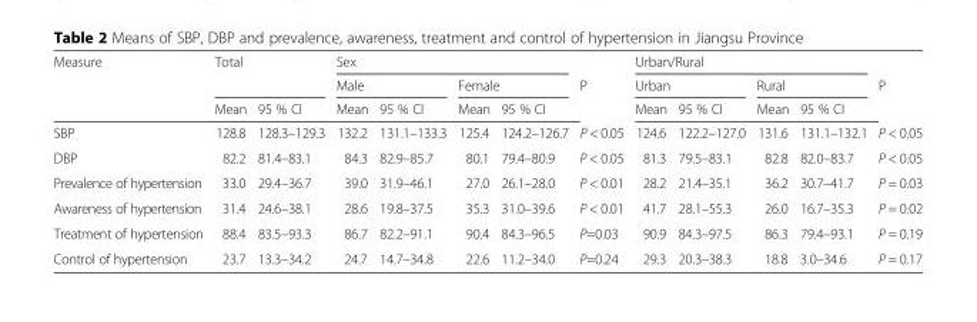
<table><thead><tr><td rowspan="3">Measure</td><td rowspan="2" colspan="2">Total</td><td colspan="4">Sex</td><td rowspan="3">P</td><td colspan="4">Urban/Rural</td><td rowspan="3">P</td></tr><tr><td colspan="2">Male</td><td colspan="2">Female</td><td colspan="2">Urban</td><td colspan="2">Rural</td></tr><tr><td>Mean</td><td>95 % CI</td><td>Mean</td><td>95 % CI</td><td>Mean</td><td>95 % CI</td><td>Mean</td><td>95 % CI</td><td>Mean</td><td>95 % CI</td></tr></thead><tbody><tr><td>SBP</td><td>128.8</td><td>128.3–129.3</td><td>132.2</td><td>131.1–133.3</td><td>125.4</td><td>124.2–126.7</td><td>P &lt; 0.05</td><td>124.6</td><td>122.2–127.0</td><td>131.6</td><td>131.1–132.1</td><td>P &lt; 0.05</td></tr><tr><td>DBP</td><td>82.2</td><td>81.4–83.1</td><td>84.3</td><td>82.9–85.7</td><td>80.1</td><td>79.4–80.9</td><td>P &lt; 0.05</td><td>81.3</td><td>79.5–83.1</td><td>82.8</td><td>82.0–83.7</td><td>P &lt; 0.05</td></tr><tr><td>Prevalence of hypertension</td><td>33.0</td><td>29.4–36.7</td><td>39.0</td><td>31.9–46.1</td><td>27.0</td><td>26.1–28.0</td><td>P &lt; 0.01</td><td>28.2</td><td>21.4–35.1</td><td>36.2</td><td>30.7–41.7</td><td>P = 0.03</td></tr><tr><td>Awareness of hypertension</td><td>31.4</td><td>24.6–38.1</td><td>28.6</td><td>19.8–37.5</td><td>35.3</td><td>31.0–39.6</td><td>P &lt; 0.01</td><td>41.7</td><td>28.1–55.3</td><td>26.0</td><td>16.7–35.3</td><td>P = 0.02</td></tr><tr><td>Treatment of hypertension</td><td>88.4</td><td>83.5–93.3</td><td>86.7</td><td>82.2–91.1</td><td>90.4</td><td>84.3–96.5</td><td>P=0.03</td><td>90.9</td><td>84.3–97.5</td><td>86.3</td><td>79.4–93.1</td><td>P = 0.19</td></tr><tr><td>Control of hypertension</td><td>23.7</td><td>13.3–34.2</td><td>24.7</td><td>14.7–34.8</td><td>22.6</td><td>11.2–34.0</td><td>P=0.24</td><td>29.3</td><td>20.3–38.3</td><td>18.8</td><td>3.0–34.6</td><td>P = 0.17</td></tr></tbody></table>